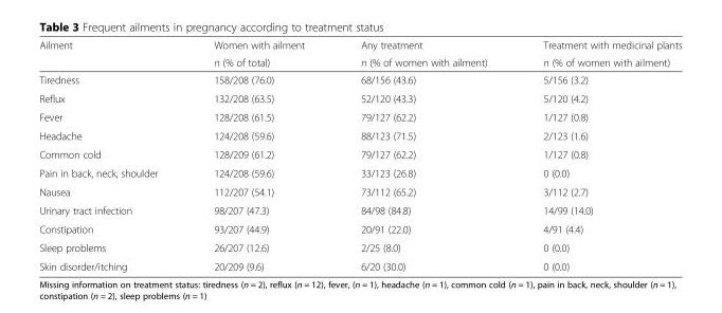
<table><thead><tr><td rowspan="2">Ailment</td><td rowspan="2">Women with ailment n (% of total)</td><td rowspan="2">Any treatment n (% of women with ailment)</td><td rowspan="2">Treatment with medicinal plants n (% of women with ailment)</td></tr><tr></tr></thead><tbody><tr><td>Tiredness</td><td>158/208 (76.0)</td><td>68/156 (43.6)</td><td>5/156 (3.2)</td></tr><tr><td>Reflux</td><td>132/208 (63.5)</td><td>52/120 (43.3)</td><td>5/120 (4.2)</td></tr><tr><td>Fever</td><td>128/208 (61.5)</td><td>79/127 (62.2)</td><td>1/127 (0.8)</td></tr><tr><td>Headache</td><td>124/208 (59.6)</td><td>88/123 (71.5)</td><td>2/123 (1.6)</td></tr><tr><td>Common cold</td><td>128/209 (61.2)</td><td>79/127 (62.2)</td><td>1/127 (0.8)</td></tr><tr><td>Pain in back, neck, shoulder</td><td>124/208 (59.6)</td><td>33/123 (26.8)</td><td>0 (0.0)</td></tr><tr><td>Nausea</td><td>112/207 (54.1)</td><td>73/112 (65.2)</td><td>3/112 (2.7)</td></tr><tr><td>Urinary tract infection</td><td>98/207 (47.3)</td><td>84/98 (84.8)</td><td>14/99 (14.0)</td></tr><tr><td>Constipation</td><td>93/207 (44.9)</td><td>20/91 (22.0)</td><td>4/91 (4.4)</td></tr><tr><td>Sleep problems</td><td>26/207 (12.6)</td><td>2/25 (8.0)</td><td>0 (0.0)</td></tr><tr><td>Skin disorder/itching</td><td>20/209 (9.6)</td><td>6/20 (30.0)</td><td>0 (0.0)</td></tr></tbody></table>